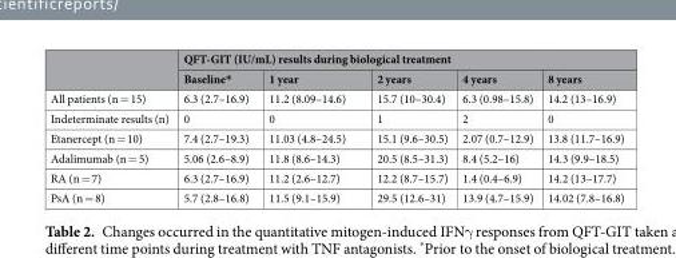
<table><thead><tr><td rowspan="2"></td><td colspan="5">QFT-GIT (IU/mL) results during biological treatment</td></tr><tr><td>Baseline*</td><td>1 year</td><td>2 years</td><td>4 years</td><td>8 years</td></tr></thead><tbody><tr><td>All patients (n = 15)</td><td>6.3 (2.7–16.9)</td><td>11.2 (8.09–14.6)</td><td>15.7 (10–30.4)</td><td>6.3 (0.98–15.8)</td><td>14.2 (13–16.9)</td></tr><tr><td>Indeterminate results (n)</td><td>0</td><td>0</td><td>1</td><td>2</td><td>0</td></tr><tr><td>Etanercept (n = 10)</td><td>7.4 (2.7–19.3)</td><td>11.03 (4.8–24.5)</td><td>15.1 (9.6–30.5)</td><td>2.07 (0.7–12.9)</td><td>13.8 (11.7–16.9)</td></tr><tr><td>Adalimumab (n = 5)</td><td>5.06 (2.6–8.9)</td><td>11.8 (8.6–14.3)</td><td>20.5 (8.5–31.3)</td><td>8.4 (5.2–16)</td><td>14.3 (9.9–18.5)</td></tr><tr><td>RA (n = 7)</td><td>6.3 (2.7–16.9)</td><td>11.2 (2.6–12.7)</td><td>12.2 (8.7–15.7)</td><td>1.4 (0.4–6.9)</td><td>14.2 (13–17.7)</td></tr><tr><td>PsA (n = 8)</td><td>5.7 (2.8–16.8)</td><td>11.5 (9.1–15.9)</td><td>29.5 (12.6–31)</td><td>13.9 (4.7–15.9)</td><td>14.02 (7.8–16.8)</td></tr></tbody></table>